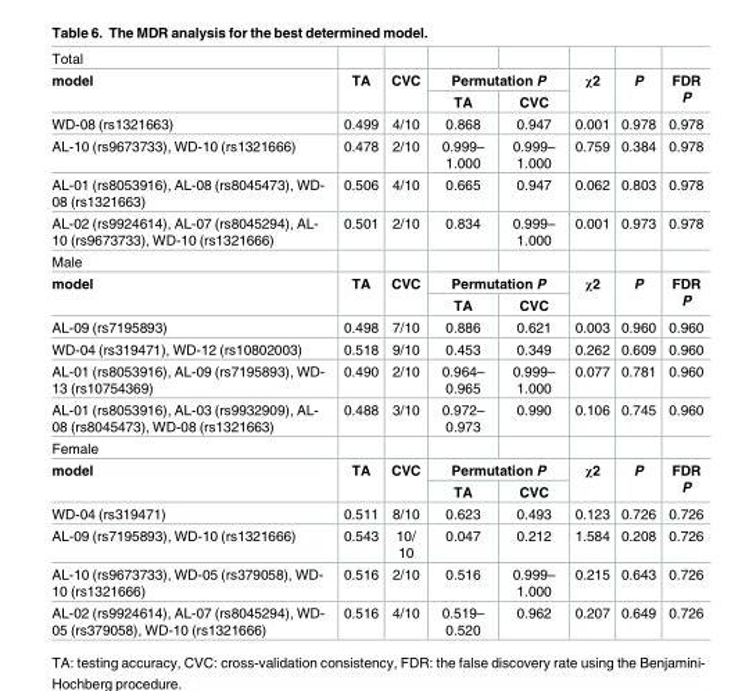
<table><tbody><tr><td colspan="8">Total</td></tr><tr><td rowspan="2">model</td><td rowspan="2">TA</td><td rowspan="2">CVC</td><td colspan="2">Permutation P</td><td rowspan="2">χ2</td><td rowspan="2">P</td><td rowspan="2">FDR P</td></tr><tr><td>TA</td><td>CVC</td></tr><tr><td>WD-08 (rs1321663)</td><td>0.499</td><td>4/10</td><td>0.868</td><td>0.947</td><td>0.001</td><td>0.978</td><td>0.978</td></tr><tr><td>AL-10 (rs9673733), WD-10 (rs1321666)</td><td>0.478</td><td>2/10</td><td>0.999– 1.000</td><td>0.999– 1.000</td><td>0.759</td><td>0.384</td><td>0.978</td></tr><tr><td>AL-01 (rs8053916), AL-08 (rs8045473), WD- 08 (rs1321663)</td><td>0.506</td><td>4/10</td><td>0.665</td><td>0.947</td><td>0.062</td><td>0.803</td><td>0.978</td></tr><tr><td>AL-02 (rs9924614), AL-07 (rs8045294), AL- 10 (rs9673733), WD-10 (rs1321666)</td><td>0.501</td><td>2/10</td><td>0.834</td><td>0.999– 1.000</td><td>0.001</td><td>0.973</td><td>0.978</td></tr><tr><td colspan="8">Male</td></tr><tr><td rowspan="2">model</td><td rowspan="2">TA</td><td rowspan="2">CVC</td><td colspan="2">Permutation P</td><td rowspan="2">χ2</td><td rowspan="2">P</td><td rowspan="2">FDR P</td></tr><tr><td>TA</td><td>CVC</td></tr><tr><td>AL-09 (rs7195893)</td><td>0.498</td><td>7/10</td><td>0.886</td><td>0.621</td><td>0.003</td><td>0.960</td><td>0.960</td></tr><tr><td>WD-04 (rs319471), WD-12 (rs10802003)</td><td>0.518</td><td>9/10</td><td>0.453</td><td>0.349</td><td>0.262</td><td>0.609</td><td>0.960</td></tr><tr><td>AL-01 (rs8053916), AL-09 (rs7195893), WD- 13 (rs10754369)</td><td>0.490</td><td>2/10</td><td>0.964– 0.965</td><td>0.999– 1.000</td><td>0.077</td><td>0.781</td><td>0.960</td></tr><tr><td>AL-01 (rs8053916), AL-03 (rs9932909), AL- 08 (rs8045473), WD-08 (rs1321663)</td><td>0.488</td><td>3/10</td><td>0.972– 0.973</td><td>0.990</td><td>0.106</td><td>0.745</td><td>0.960</td></tr><tr><td colspan="8">Female</td></tr><tr><td rowspan="2">model</td><td rowspan="2">TA</td><td rowspan="2">CVC</td><td colspan="2">Permutation P</td><td rowspan="2">χ2</td><td rowspan="2">P</td><td rowspan="2">FDR P</td></tr><tr><td>TA</td><td>CVC</td></tr><tr><td>WD-04 (rs319471)</td><td>0.511</td><td>8/10</td><td>0.623</td><td>0.493</td><td>0.123</td><td>0.726</td><td>0.726</td></tr><tr><td>AL-09 (rs7195893), WD-10 (rs1321666)</td><td>0.543</td><td>10/ 10</td><td>0.047</td><td>0.212</td><td>1.584</td><td>0.208</td><td>0.726</td></tr><tr><td>AL-10 (rs9673733), WD-05 (rs379058), WD- 10 (rs1321666)</td><td>0.516</td><td>2/10</td><td>0.516</td><td>0.999– 1.000</td><td>0.215</td><td>0.643</td><td>0.726</td></tr><tr><td>AL-02 (rs9924614), AL-07 (rs8045294), WD- 05 (rs379058), WD-10 (rs1321666)</td><td>0.516</td><td>4/10</td><td>0.519– 0.520</td><td>0.962</td><td>0.207</td><td>0.649</td><td>0.726</td></tr></tbody></table>